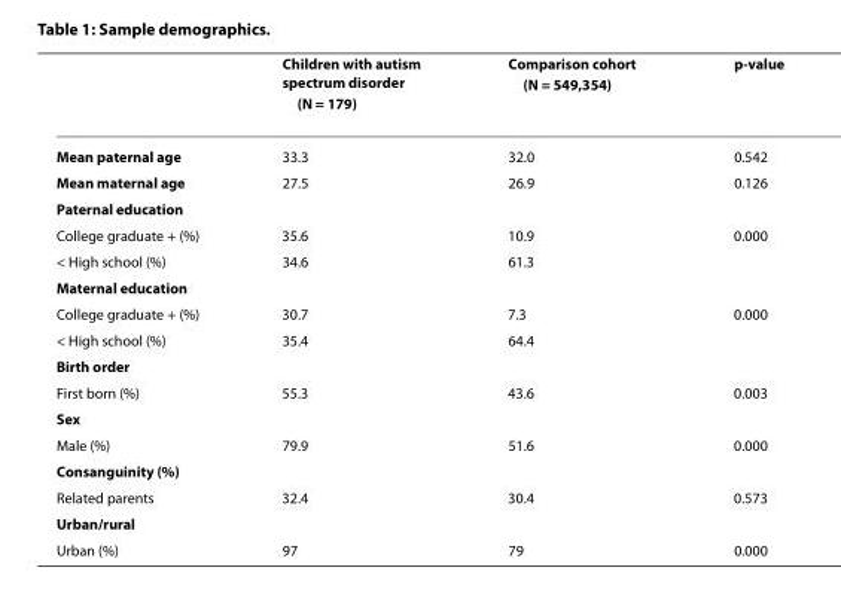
<table><thead><tr><td></td><td>Children with autism spectrum disorder (N = 179)</td><td>Comparison cohort (N = 549,354)</td><td>p-value</td></tr></thead><tbody><tr><td>Mean paternal age</td><td>33.3</td><td>32.0</td><td>0.542</td></tr><tr><td>Mean maternal age</td><td>27.5</td><td>26.9</td><td>0.126</td></tr><tr><td colspan="4">Paternal education</td></tr><tr><td>College graduate + (%)</td><td>35.6</td><td>10.9</td><td>0.000</td></tr><tr><td>&lt; High school (%)</td><td>34.6</td><td>61.3</td><td></td></tr><tr><td colspan="4">Maternal education</td></tr><tr><td>College graduate + (%)</td><td>30.7</td><td>7.3</td><td>0.000</td></tr><tr><td>&lt; High school (%)</td><td>35.4</td><td>64.4</td><td></td></tr><tr><td colspan="4">Birth order</td></tr><tr><td>First born (%)</td><td>55.3</td><td>43.6</td><td>0.003</td></tr><tr><td colspan="4">Sex</td></tr><tr><td>Male (%)</td><td>79.9</td><td>51.6</td><td>0.000</td></tr><tr><td colspan="4">Consanguinity (%)</td></tr><tr><td>Related parents</td><td>32.4</td><td>30.4</td><td>0.573</td></tr><tr><td colspan="4">Urban/rural</td></tr><tr><td>Urban (%)</td><td>97</td><td>79</td><td>0.000</td></tr></tbody></table>